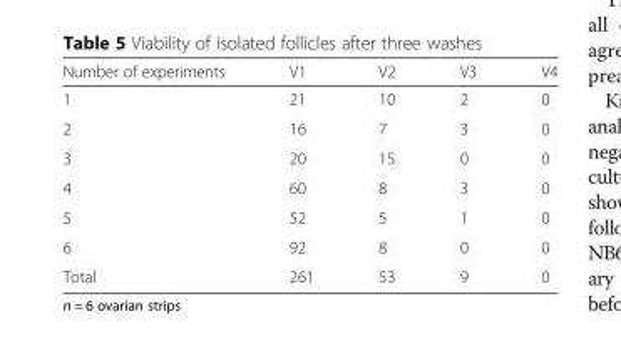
<table><thead><tr><td>Number of experiments</td><td>V1</td><td>V2</td><td>V3</td><td>V4</td></tr></thead><tbody><tr><td>1</td><td>21</td><td>10</td><td>2</td><td>0</td></tr><tr><td>2</td><td>16</td><td>7</td><td>3</td><td>0</td></tr><tr><td>3</td><td>20</td><td>15</td><td>0</td><td>0</td></tr><tr><td>4</td><td>60</td><td>8</td><td>3</td><td>0</td></tr><tr><td>5</td><td>52</td><td>5</td><td>1</td><td>0</td></tr><tr><td>6</td><td>92</td><td>8</td><td>0</td><td>0</td></tr><tr><td>Total</td><td>261</td><td>53</td><td>9</td><td>0</td></tr></tbody></table>